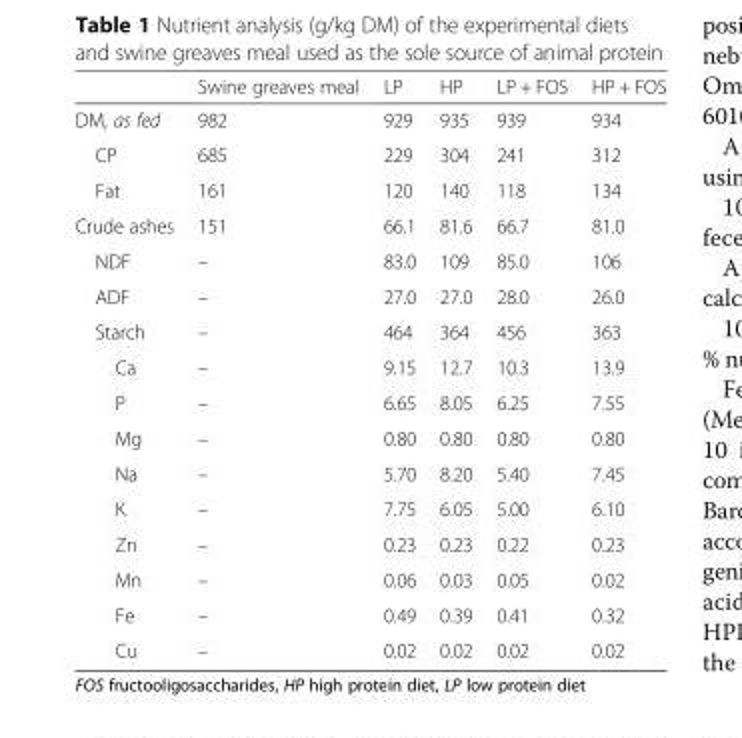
<table><thead><tr><td></td><td>Swine greaves meal</td><td>LP</td><td>HP</td><td>LP + FOS</td><td>HP + FOS</td></tr></thead><tbody><tr><td>DM, as fed</td><td>982</td><td>929</td><td>935</td><td>939</td><td>934</td></tr><tr><td>CP</td><td>685</td><td>229</td><td>304</td><td>241</td><td>312</td></tr><tr><td>Fat</td><td>161</td><td>120</td><td>140</td><td>118</td><td>134</td></tr><tr><td>Crude ashes</td><td>151</td><td>66.1</td><td>81.6</td><td>66.7</td><td>81.0</td></tr><tr><td>NDF</td><td>–</td><td>83.0</td><td>109</td><td>85.0</td><td>106</td></tr><tr><td>ADF</td><td>–</td><td>27.0</td><td>27.0</td><td>28.0</td><td>26.0</td></tr><tr><td>Starch</td><td>–</td><td>464</td><td>364</td><td>456</td><td>363</td></tr><tr><td>Ca</td><td>–</td><td>9.15</td><td>12.7</td><td>10.3</td><td>13.9</td></tr><tr><td>P</td><td>–</td><td>6.65</td><td>8.05</td><td>6.25</td><td>7.55</td></tr><tr><td>Mg</td><td>–</td><td>0.80</td><td>0.80</td><td>0.80</td><td>0.80</td></tr><tr><td>Na</td><td>–</td><td>5.70</td><td>8.20</td><td>5.40</td><td>7.45</td></tr><tr><td>K</td><td>–</td><td>7.75</td><td>6.05</td><td>5.00</td><td>6.10</td></tr><tr><td>Zn</td><td>–</td><td>0.23</td><td>0.23</td><td>0.22</td><td>0.23</td></tr><tr><td>Mn</td><td>–</td><td>0.06</td><td>0.03</td><td>0.05</td><td>0.02</td></tr><tr><td>Fe</td><td>–</td><td>0.49</td><td>0.39</td><td>0.41</td><td>0.32</td></tr><tr><td>Cu</td><td>–</td><td>0.02</td><td>0.02</td><td>0.02</td><td>0.02</td></tr></tbody></table>